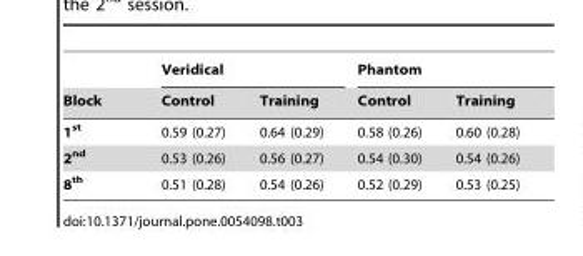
<table><thead><tr><td rowspan="2">Block</td><td colspan="2">Veridical</td><td colspan="2">Phantom</td></tr><tr><td>Control</td><td>Training</td><td>Control</td><td>Training</td></tr></thead><tbody><tr><td>1<sup>st</sup></td><td>0.59 (0.27)</td><td>0.64 (0.29)</td><td>0.58 (0.26)</td><td>0.60 (0.28)</td></tr><tr><td>2<sup>nd</sup></td><td>0.53 (0.26)</td><td>0.56 (0.27)</td><td>0.54 (0.30)</td><td>0.54 (0.26)</td></tr><tr><td>8<sup>th</sup></td><td>0.51 (0.28)</td><td>0.54 (0.26)</td><td>0.52 (0.29)</td><td>0.53 (0.25)</td></tr></tbody></table>